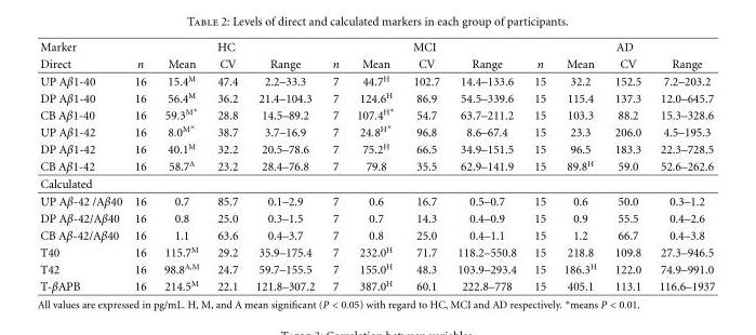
<table><thead><tr><td rowspan="2">Marker Direct</td><td colspan="4">HC</td><td colspan="4">MCI</td><td colspan="4">AD</td></tr><tr><td>n</td><td>Mean</td><td>CV</td><td>Range</td><td>n</td><td>Mean</td><td>CV</td><td>Range</td><td>n</td><td>Mean</td><td>CV</td><td>Range</td></tr></thead><tbody><tr><td>UP Aβ1-40</td><td>16</td><td>15.4<sup>M</sup></td><td>47.4</td><td>2.2–33.3</td><td>7</td><td>44.7<sup>H</sup></td><td>102.7</td><td>14.4–133.6</td><td>15</td><td>32.2</td><td>152.5</td><td>7.2–203.2</td></tr><tr><td>DP Aβ1-40</td><td>16</td><td>56.4<sup>M</sup></td><td>36.2</td><td>21.4–104.3</td><td>7</td><td>124.6<sup>H</sup></td><td>86.9</td><td>54.5–339.6</td><td>15</td><td>115.4</td><td>137.3</td><td>12.0–645.7</td></tr><tr><td>CB Aβ1-40</td><td>16</td><td>59.3M∗</td><td>28.8</td><td>14.5–89.2</td><td>7</td><td>107.4H∗</td><td>54.7</td><td>63.7–211.2</td><td>15</td><td>103.3</td><td>88.2</td><td>15.3–328.6</td></tr><tr><td>UP Aβ1-42</td><td>16</td><td>8.0M∗</td><td>38.7</td><td>3.7–16.9</td><td>7</td><td>24.8H∗</td><td>96.8</td><td>8.6–67.4</td><td>15</td><td>23.3</td><td>206.0</td><td>4.5–195.3</td></tr><tr><td>DP Aβ1-42</td><td>16</td><td>40.1<sup>M</sup></td><td>32.2</td><td>20.5–78.6</td><td>7</td><td>75.2<sup>H</sup></td><td>66.5</td><td>34.9–151.5</td><td>15</td><td>96.5</td><td>183.3</td><td>22.3–728.5</td></tr><tr><td>CB Aβ1-42</td><td>16</td><td>58.7<sup>A</sup></td><td>23.2</td><td>28.4–76.8</td><td>7</td><td>79.8</td><td>35.5</td><td>62.9–141.9</td><td>15</td><td>89.8<sup>H</sup></td><td>59.0</td><td>52.6–262.6</td></tr><tr><td colspan="13">Calculated</td></tr><tr><td>UP Aβ-42 /Aβ40</td><td>16</td><td>0.7</td><td>85.7</td><td>0.1–2.9</td><td>7</td><td>0.6</td><td>16.7</td><td>0.5–0.7</td><td>15</td><td>0.6</td><td>50.0</td><td>0.3–1.2</td></tr><tr><td>DP Aβ-42/Aβ40</td><td>16</td><td>0.8</td><td>25.0</td><td>0.3–1.5</td><td>7</td><td>0.7</td><td>14.3</td><td>0.4–0.9</td><td>15</td><td>0.9</td><td>55.5</td><td>0.4–2.6</td></tr><tr><td>CB Aβ-42/Aβ40</td><td>16</td><td>1.1</td><td>63.6</td><td>0.4–3.7</td><td>7</td><td>0.8</td><td>25.0</td><td>0.4–1.1</td><td>15</td><td>1.2</td><td>66.7</td><td>0.4–3.8</td></tr><tr><td>T40</td><td>16</td><td>115.7<sup>M</sup></td><td>29.2</td><td>35.9–175.4</td><td>7</td><td>232.0<sup>H</sup></td><td>71.7</td><td>118.2–550.8</td><td>15</td><td>218.8</td><td>109.8</td><td>27.3–946.5</td></tr><tr><td>T42</td><td>16</td><td>98.8<sup>A,M</sup></td><td>24.7</td><td>59.7–155.5</td><td>7</td><td>155.0<sup>H</sup></td><td>48.3</td><td>103.9–293.4</td><td>15</td><td>186.3<sup>H</sup></td><td>122.0</td><td>74.9–991.0</td></tr><tr><td>T-βAPB</td><td>16</td><td>214.5<sup>M</sup></td><td>22.1</td><td>121.8–307.2</td><td>7</td><td>387.0<sup>H</sup></td><td>60.1</td><td>222.8–778</td><td>15</td><td>405.1</td><td>113.1</td><td>116.6–1937</td></tr></tbody></table>